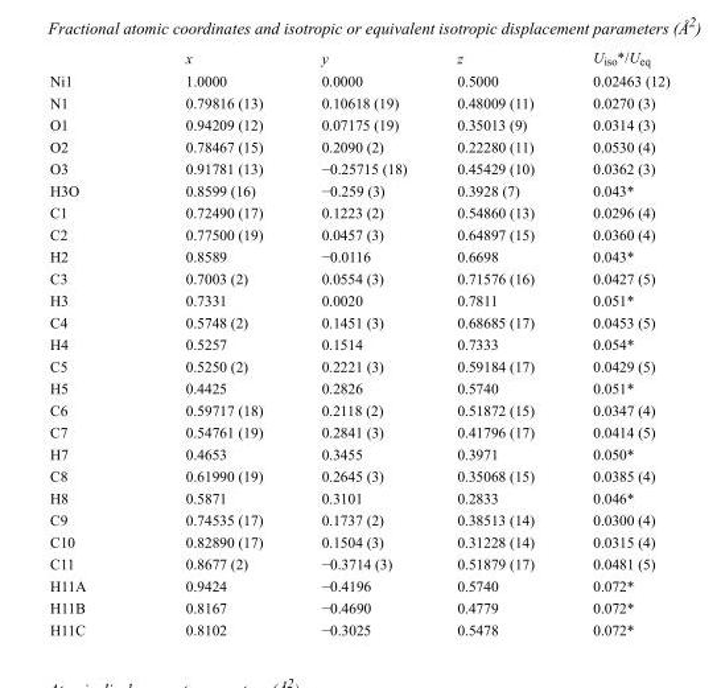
<table><thead><tr><td></td><td>x</td><td>y</td><td>z</td><td>U<sub>iso</sub>*/U<sub>eq</sub></td></tr></thead><tbody><tr><td>Ni1</td><td>1.0000</td><td>0.0000</td><td>0.5000</td><td>0.02463 (12)</td></tr><tr><td>N1</td><td>0.79816 (13)</td><td>0.10618 (19)</td><td>0.48009 (11)</td><td>0.0270 (3)</td></tr><tr><td>O1</td><td>0.94209 (12)</td><td>0.07175 (19)</td><td>0.35013 (9)</td><td>0.0314 (3)</td></tr><tr><td>O2</td><td>0.78467 (15)</td><td>0.2090 (2)</td><td>0.22280 (11)</td><td>0.0530 (4)</td></tr><tr><td>O3</td><td>0.91781 (13)</td><td>−0.25715 (18)</td><td>0.45429 (10)</td><td>0.0362 (3)</td></tr><tr><td>H3O</td><td>0.8599 (16)</td><td>−0.259 (3)</td><td>0.3928 (7)</td><td>0.043*</td></tr><tr><td>C1</td><td>0.72490 (17)</td><td>0.1223 (2)</td><td>0.54860 (13)</td><td>0.0296 (4)</td></tr><tr><td>C2</td><td>0.77500 (19)</td><td>0.0457 (3)</td><td>0.64897 (15)</td><td>0.0360 (4)</td></tr><tr><td>H2</td><td>0.8589</td><td>−0.0116</td><td>0.6698</td><td>0.043*</td></tr><tr><td>C3</td><td>0.7003 (2)</td><td>0.0554 (3)</td><td>0.71576 (16)</td><td>0.0427 (5)</td></tr><tr><td>H3</td><td>0.7331</td><td>0.0020</td><td>0.7811</td><td>0.051*</td></tr><tr><td>C4</td><td>0.5748 (2)</td><td>0.1451 (3)</td><td>0.68685 (17)</td><td>0.0453 (5)</td></tr><tr><td>H4</td><td>0.5257</td><td>0.1514</td><td>0.7333</td><td>0.054*</td></tr><tr><td>C5</td><td>0.5250 (2)</td><td>0.2221 (3)</td><td>0.59184 (17)</td><td>0.0429 (5)</td></tr><tr><td>H5</td><td>0.4425</td><td>0.2826</td><td>0.5740</td><td>0.051*</td></tr><tr><td>C6</td><td>0.59717 (18)</td><td>0.2118 (2)</td><td>0.51872 (15)</td><td>0.0347 (4)</td></tr><tr><td>C7</td><td>0.54761 (19)</td><td>0.2841 (3)</td><td>0.41796 (17)</td><td>0.0414 (5)</td></tr><tr><td>H7</td><td>0.4653</td><td>0.3455</td><td>0.3971</td><td>0.050*</td></tr><tr><td>C8</td><td>0.61990 (19)</td><td>0.2645 (3)</td><td>0.35068 (15)</td><td>0.0385 (4)</td></tr><tr><td>H8</td><td>0.5871</td><td>0.3101</td><td>0.2833</td><td>0.046*</td></tr><tr><td>C9</td><td>0.74535 (17)</td><td>0.1737 (2)</td><td>0.38513 (14)</td><td>0.0300 (4)</td></tr><tr><td>C10</td><td>0.82890 (17)</td><td>0.1504 (3)</td><td>0.31228 (14)</td><td>0.0315 (4)</td></tr><tr><td>C11</td><td>0.8677 (2)</td><td>−0.3714 (3)</td><td>0.51879 (17)</td><td>0.0481 (5)</td></tr><tr><td>H11A</td><td>0.9424</td><td>−0.4196</td><td>0.5740</td><td>0.072*</td></tr><tr><td>H11B</td><td>0.8167</td><td>−0.4690</td><td>0.4779</td><td>0.072*</td></tr><tr><td>H11C</td><td>0.8102</td><td>−0.3025</td><td>0.5478</td><td>0.072*</td></tr></tbody></table>